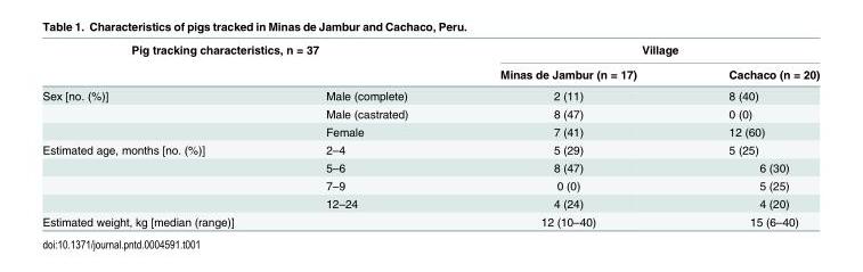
<table><thead><tr><td colspan="2">Pig tracking characteristics, n = 37</td><td colspan="2">Village</td></tr><tr><td></td><td></td><td>Minas de Jambur (n = 17)</td><td>Cachaco (n = 20)</td></tr></thead><tbody><tr><td rowspan="3">Sex [no. (%)]</td><td>Male (complete)</td><td>2 (11)</td><td>8 (40)</td></tr><tr><td>Male (castrated)</td><td>8 (47)</td><td>0 (0)</td></tr><tr><td>Female</td><td>7 (41)</td><td>12 (60)</td></tr><tr><td rowspan="4">Estimated age, months [no. (%)]</td><td>2–4</td><td>5 (29)</td><td>5 (25)</td></tr><tr><td>5–6</td><td>8 (47)</td><td>6 (30)</td></tr><tr><td>7–9</td><td>0 (0)</td><td>5 (25)</td></tr><tr><td>12–24</td><td>4 (24)</td><td>4 (20)</td></tr><tr><td>Estimated weight, kg [median (range)]</td><td></td><td>12 (10–40)</td><td>15 (6–40)</td></tr></tbody></table>